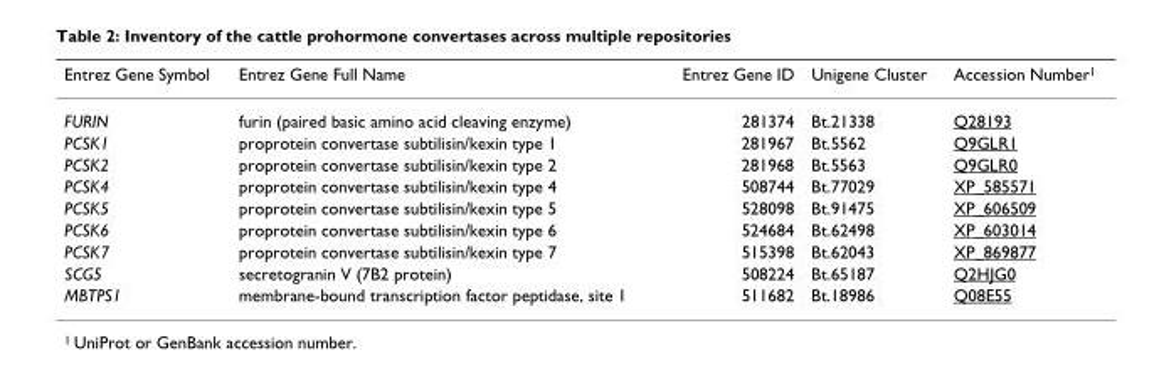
<table><thead><tr><td>Entrez Gene Symbol</td><td>Entrez Gene Full Name</td><td>Entrez Gene ID</td><td>Unigene Cluster</td><td>Accession Number<sup>1</sup></td></tr></thead><tbody><tr><td>FURIN</td><td>furin (paired basic amino acid cleaving enzyme)</td><td>281374</td><td>Bt.21338</td><td>Q28193</td></tr><tr><td>PCSK1</td><td>proprotein convertase subtilisin/kexin type 1</td><td>281967</td><td>Bt.5562</td><td>Q9GLR1</td></tr><tr><td>PCSK2</td><td>proprotein convertase subtilisin/kexin type 2</td><td>281968</td><td>Bt.5563</td><td>Q9GLR0</td></tr><tr><td>PCSK4</td><td>proprotein convertase subtilisin/kexin type 4</td><td>508744</td><td>Bt.77029</td><td>XP_585571</td></tr><tr><td>PCSK5</td><td>proprotein convertase subtilisin/kexin type 5</td><td>528098</td><td>Bt.91475</td><td>XP_606509</td></tr><tr><td>PCSK6</td><td>proprotein convertase subtilisin/kexin type 6</td><td>524684</td><td>Bt.62498</td><td>XP_603014</td></tr><tr><td>PCSK7</td><td>proprotein convertase subtilisin/kexin type 7</td><td>515398</td><td>Bt.62043</td><td>XP_869877</td></tr><tr><td>SCG5</td><td>secretogranin V (7B2 protein)</td><td>508224</td><td>Bt.65187</td><td>Q2HJG0</td></tr><tr><td>MBTPS1</td><td>membrane-bound transcription factor peptidase, site 1</td><td>511682</td><td>Bt.18986</td><td>Q08E55</td></tr></tbody></table>